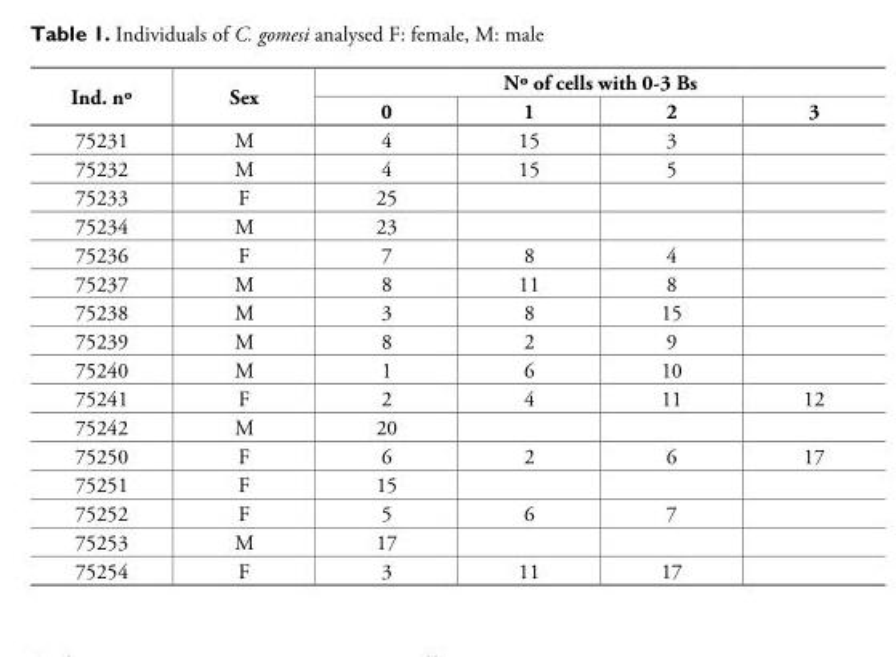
<table><thead><tr><td rowspan="2">Ind. nº</td><td rowspan="2">Sex</td><td colspan="4">Nº of cells with 0-3 Bs</td></tr><tr><td>0</td><td>1</td><td>2</td><td>3</td></tr></thead><tbody><tr><td>75231</td><td>M</td><td>4</td><td>15</td><td>3</td><td></td></tr><tr><td>75232</td><td>M</td><td>4</td><td>15</td><td>5</td><td></td></tr><tr><td>75233</td><td>F</td><td>25</td><td></td><td></td><td></td></tr><tr><td>75234</td><td>M</td><td>23</td><td></td><td></td><td></td></tr><tr><td>75236</td><td>F</td><td>7</td><td>8</td><td>4</td><td></td></tr><tr><td>75237</td><td>M</td><td>8</td><td>11</td><td>8</td><td></td></tr><tr><td>75238</td><td>M</td><td>3</td><td>8</td><td>15</td><td></td></tr><tr><td>75239</td><td>M</td><td>8</td><td>2</td><td>9</td><td></td></tr><tr><td>75240</td><td>M</td><td>1</td><td>6</td><td>10</td><td></td></tr><tr><td>75241</td><td>F</td><td>2</td><td>4</td><td>11</td><td>12</td></tr><tr><td>75242</td><td>M</td><td>20</td><td></td><td></td><td></td></tr><tr><td>75250</td><td>F</td><td>6</td><td>2</td><td>6</td><td>17</td></tr><tr><td>75251</td><td>F</td><td>15</td><td></td><td></td><td></td></tr><tr><td>75252</td><td>F</td><td>5</td><td>6</td><td>7</td><td></td></tr><tr><td>75253</td><td>M</td><td>17</td><td></td><td></td><td></td></tr><tr><td>75254</td><td>F</td><td>3</td><td>11</td><td>17</td><td></td></tr></tbody></table>